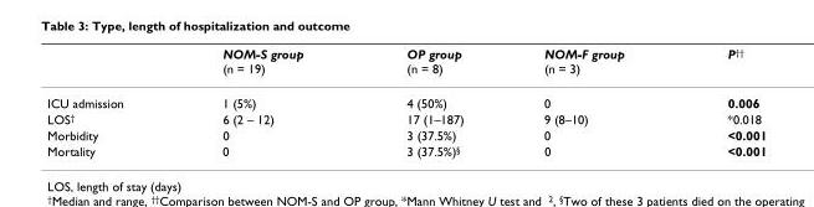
<table><thead><tr><td></td><td>NOM-S group (n = 19)</td><td>OP group (n = 8)</td><td>NOM-F group (n = 3)</td><td>P<sup>††</sup></td></tr></thead><tbody><tr><td>ICU admission</td><td>1 (5%)</td><td>4 (50%)</td><td>0</td><td>0.006</td></tr><tr><td>LOS<sup>†</sup></td><td>6 (2 – 12)</td><td>17 (1–187)</td><td>9 (8–10)</td><td>*0.018</td></tr><tr><td>Morbidity</td><td>0</td><td>3 (37.5%)</td><td>0</td><td>&lt;0.001</td></tr><tr><td>Mortality</td><td>0</td><td>3 (37.5%)<sup>§</sup></td><td>0</td><td>&lt;0.001</td></tr></tbody></table>